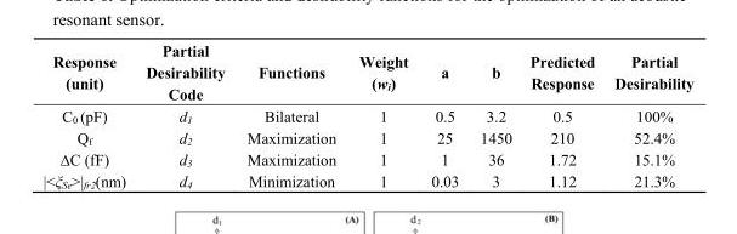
<table><thead><tr><td>Response (unit)</td><td>Partial Desirability Code</td><td>Functions</td><td>Weight (w<sub>i</sub>)</td><td>a</td><td>b</td><td>Predicted Response</td><td>Partial Desirability</td></tr></thead><tbody><tr><td>C<sub>0</sub> (pF)</td><td>d<sub>1</sub></td><td>Bilateral</td><td>1</td><td>0.5</td><td>3.2</td><td>0.5</td><td>100%</td></tr><tr><td>Q<sub>f</sub></td><td>d<sub>2</sub></td><td>Maximization</td><td>1</td><td>25</td><td>1450</td><td>210</td><td>52.4%</td></tr><tr><td>∆C (fF)</td><td>d<sub>3</sub></td><td>Maximization</td><td>1</td><td>1</td><td>36</td><td>1.72</td><td>15.1%</td></tr><tr><td>|˂ξ<sub>Se</sub>˃|<sub>fr2</sub>(nm)</td><td>d<sub>4</sub></td><td>Minimization</td><td>1</td><td>0.03</td><td>3</td><td>1.12</td><td>21.3%</td></tr></tbody></table>